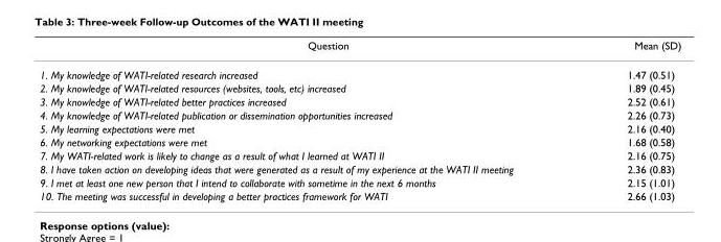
<table><thead><tr><td>Question</td><td>Mean (SD)</td></tr></thead><tbody><tr><td>1. My knowledge of WATI-related research increased</td><td>1.47 (0.51)</td></tr><tr><td>2. My knowledge of WATI-related resources (websites, tools, etc) increased</td><td>1.89 (0.45)</td></tr><tr><td>3. My knowledge of WATI-related better practices increased</td><td>2.52 (0.61)</td></tr><tr><td>4. My knowledge of WATI-related publication or dissemination opportunities increased</td><td>2.26 (0.73)</td></tr><tr><td>5. My learning expectations were met</td><td>2.16 (0.40)</td></tr><tr><td>6. My networking expectations were met</td><td>1.68 (0.58)</td></tr><tr><td>7. My WATI-related work is likely to change as a result of what I learned at WATI II</td><td>2.16 (0.75)</td></tr><tr><td>8. I have taken action on developing ideas that were generated as a result of my experience at the WATI II meeting</td><td>2.36 (0.83)</td></tr><tr><td>9. I met at least one new person that I intend to collaborate with sometime in the next 6 months</td><td>2.15 (1.01)</td></tr><tr><td>10. The meeting was successful in developing a better practices framework for WATI</td><td>2.66 (1.03)</td></tr></tbody></table>